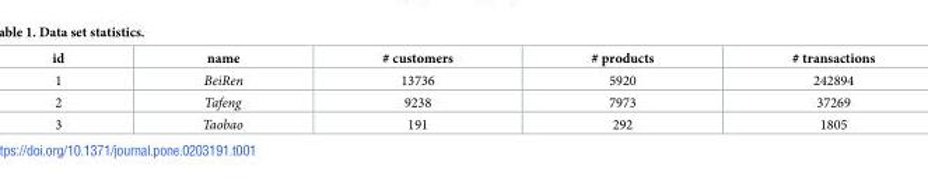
<table><thead><tr><td>id</td><td>name</td><td># customers</td><td># products</td><td># transactions</td></tr></thead><tbody><tr><td>1</td><td>BeiRen</td><td>13736</td><td>5920</td><td>242894</td></tr><tr><td>2</td><td>Tafeng</td><td>9238</td><td>7973</td><td>37269</td></tr><tr><td>3</td><td>Taobao</td><td>191</td><td>292</td><td>1805</td></tr></tbody></table>